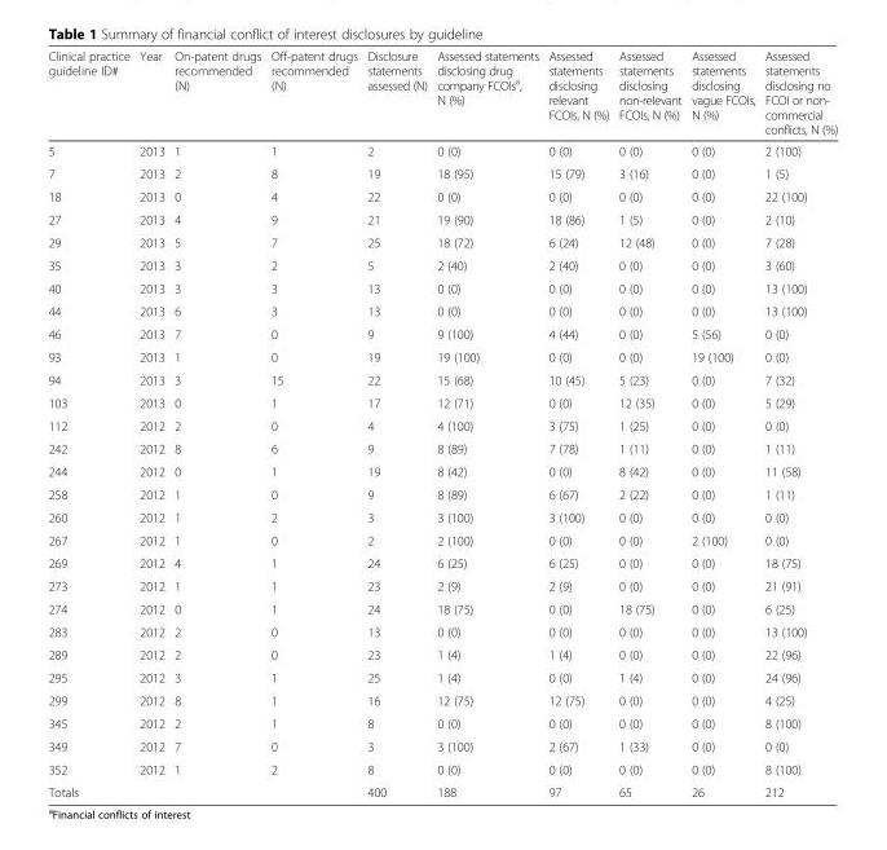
<table><thead><tr><td>Clinical practice guideline ID#</td><td>Year</td><td>On-patent drugs recommended (N)</td><td>Off-patent drugs recommended (N)</td><td>Disclosure statements assessed (N)</td><td>Assessed statements disclosing drug company FCOIs<sup>a</sup>, N (%)</td><td>Assessed statements disclosing relevant FCOIs, N (%)</td><td>Assessed statements disclosing non-relevant FCOIs, N (%)</td><td>Assessed statements disclosing vague FCOIs, N (%)</td><td>Assessed statements disclosing no FCOI or non- commercial conflicts, N (%)</td></tr></thead><tbody><tr><td>5</td><td>2013</td><td>1</td><td>1</td><td>2</td><td>0 (0)</td><td>0 (0)</td><td>0 (0)</td><td>0 (0)</td><td>2 (100)</td></tr><tr><td>7</td><td>2013</td><td>2</td><td>8</td><td>19</td><td>18 (95)</td><td>15 (79)</td><td>3 (16)</td><td>0 (0)</td><td>1 (5)</td></tr><tr><td>18</td><td>2013</td><td>0</td><td>4</td><td>22</td><td>0 (0)</td><td>0 (0)</td><td>0 (0)</td><td>0 (0)</td><td>22 (100)</td></tr><tr><td>27</td><td>2013</td><td>4</td><td>9</td><td>21</td><td>19 (90)</td><td>18 (86)</td><td>1 (5)</td><td>0 (0)</td><td>2 (10)</td></tr><tr><td>29</td><td>2013</td><td>5</td><td>7</td><td>25</td><td>18 (72)</td><td>6 (24)</td><td>12 (48)</td><td>0 (0)</td><td>7 (28)</td></tr><tr><td>35</td><td>2013</td><td>3</td><td>2</td><td>5</td><td>2 (40)</td><td>2 (40)</td><td>0 (0)</td><td>0 (0)</td><td>3 (60)</td></tr><tr><td>40</td><td>2013</td><td>3</td><td>3</td><td>13</td><td>0 (0)</td><td>0 (0)</td><td>0 (0)</td><td>0 (0)</td><td>13 (100)</td></tr><tr><td>44</td><td>2013</td><td>6</td><td>3</td><td>13</td><td>0 (0)</td><td>0 (0)</td><td>0 (0)</td><td>0 (0)</td><td>13 (100)</td></tr><tr><td>46</td><td>2013</td><td>7</td><td>0</td><td>9</td><td>9 (100)</td><td>4 (44)</td><td>0 (0)</td><td>5 (56)</td><td>0 (0)</td></tr><tr><td>93</td><td>2013</td><td>1</td><td>0</td><td>19</td><td>19 (100)</td><td>0 (0)</td><td>0 (0)</td><td>19 (100)</td><td>0 (0)</td></tr><tr><td>94</td><td>2013</td><td>3</td><td>15</td><td>22</td><td>15 (68)</td><td>10 (45)</td><td>5 (23)</td><td>0 (0)</td><td>7 (32)</td></tr><tr><td>103</td><td>2013</td><td>0</td><td>1</td><td>17</td><td>12 (71)</td><td>0 (0)</td><td>12 (35)</td><td>0 (0)</td><td>5 (29)</td></tr><tr><td>112</td><td>2012</td><td>2</td><td>0</td><td>4</td><td>4 (100)</td><td>3 (75)</td><td>1 (25)</td><td>0 (0)</td><td>0 (0)</td></tr><tr><td>242</td><td>2012</td><td>8</td><td>6</td><td>9</td><td>8 (89)</td><td>7 (78)</td><td>1 (11)</td><td>0 (0)</td><td>1 (11)</td></tr><tr><td>244</td><td>2012</td><td>0</td><td>1</td><td>19</td><td>8 (42)</td><td>0 (0)</td><td>8 (42)</td><td>0 (0)</td><td>11 (58)</td></tr><tr><td>258</td><td>2012</td><td>1</td><td>0</td><td>9</td><td>8 (89)</td><td>6 (67)</td><td>2 (22)</td><td>0 (0)</td><td>1 (11)</td></tr><tr><td>260</td><td>2012</td><td>1</td><td>2</td><td>3</td><td>3 (100)</td><td>3 (100)</td><td>0 (0)</td><td>0 (0)</td><td>0 (0)</td></tr><tr><td>267</td><td>2012</td><td>1</td><td>0</td><td>2</td><td>2 (100)</td><td>0 (0)</td><td>0 (0)</td><td>2 (100)</td><td>0 (0)</td></tr><tr><td>269</td><td>2012</td><td>4</td><td>1</td><td>24</td><td>6 (25)</td><td>6 (25)</td><td>0 (0)</td><td>0 (0)</td><td>18 (75)</td></tr><tr><td>273</td><td>2012</td><td>1</td><td>1</td><td>23</td><td>2 (9)</td><td>2 (9)</td><td>0 (0)</td><td>0 (0)</td><td>21 (91)</td></tr><tr><td>274</td><td>2012</td><td>0</td><td>1</td><td>24</td><td>18 (75)</td><td>0 (0)</td><td>18 (75)</td><td>0 (0)</td><td>6 (25)</td></tr><tr><td>283</td><td>2012</td><td>2</td><td>0</td><td>13</td><td>0 (0)</td><td>0 (0)</td><td>0 (0)</td><td>0 (0)</td><td>13 (100)</td></tr><tr><td>289</td><td>2012</td><td>2</td><td>0</td><td>23</td><td>1 (4)</td><td>1 (4)</td><td>0 (0)</td><td>0 (0)</td><td>22 (96)</td></tr><tr><td>295</td><td>2012</td><td>3</td><td>1</td><td>25</td><td>1 (4)</td><td>0 (0)</td><td>1 (4)</td><td>0 (0)</td><td>24 (96)</td></tr><tr><td>299</td><td>2012</td><td>8</td><td>1</td><td>16</td><td>12 (75)</td><td>12 (75)</td><td>0 (0)</td><td>0 (0)</td><td>4 (25)</td></tr><tr><td>345</td><td>2012</td><td>2</td><td>1</td><td>8</td><td>0 (0)</td><td>0 (0)</td><td>0 (0)</td><td>0 (0)</td><td>8 (100)</td></tr><tr><td>349</td><td>2012</td><td>7</td><td>0</td><td>3</td><td>3 (100)</td><td>2 (67)</td><td>1 (33)</td><td>0 (0)</td><td>0 (0)</td></tr><tr><td>352</td><td>2012</td><td>1</td><td>2</td><td>8</td><td>0 (0)</td><td>0 (0)</td><td>0 (0)</td><td>0 (0)</td><td>8 (100)</td></tr><tr><td colspan="4">Totals</td><td>400</td><td>188</td><td>97</td><td>65</td><td>26</td><td>212</td></tr></tbody></table>